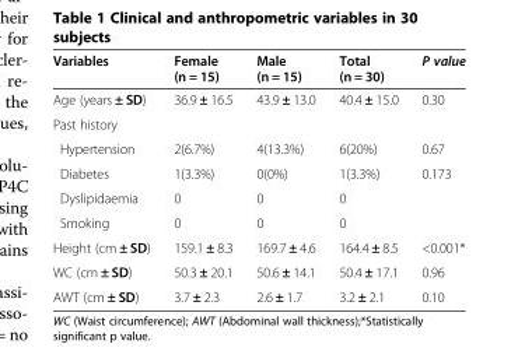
<table><thead><tr><td>Variables</td><td>Female (n = 15)</td><td>Male (n = 15)</td><td>Total (n = 30)</td><td>P value</td></tr></thead><tbody><tr><td>Age (years ± SD)</td><td>36.9 ± 16.5</td><td>43.9 ± 13.0</td><td>40.4 ± 15.0</td><td>0.30</td></tr><tr><td colspan="5">Past history</td></tr><tr><td>Hypertension</td><td>2(6.7%)</td><td>4(13.3%)</td><td>6(20%)</td><td>0.67</td></tr><tr><td>Diabetes</td><td>1(3.3%)</td><td>0(0%)</td><td>1(3.3%)</td><td>0.173</td></tr><tr><td>Dyslipidaemia</td><td>0</td><td>0</td><td>0</td><td></td></tr><tr><td>Smoking</td><td>0</td><td>0</td><td>0</td><td></td></tr><tr><td>Height (cm ± SD)</td><td>159.1 ± 8.3</td><td>169.7 ± 4.6</td><td>164.4 ± 8.5</td><td>&lt;0.001*</td></tr><tr><td>WC (cm ± SD)</td><td>50.3 ± 20.1</td><td>50.6 ± 14.1</td><td>50.4 ± 17.1</td><td>0.96</td></tr><tr><td>AWT (cm ± SD)</td><td>3.7 ± 2.3</td><td>2.6 ± 1.7</td><td>3.2 ± 2.1</td><td>0.10</td></tr></tbody></table>